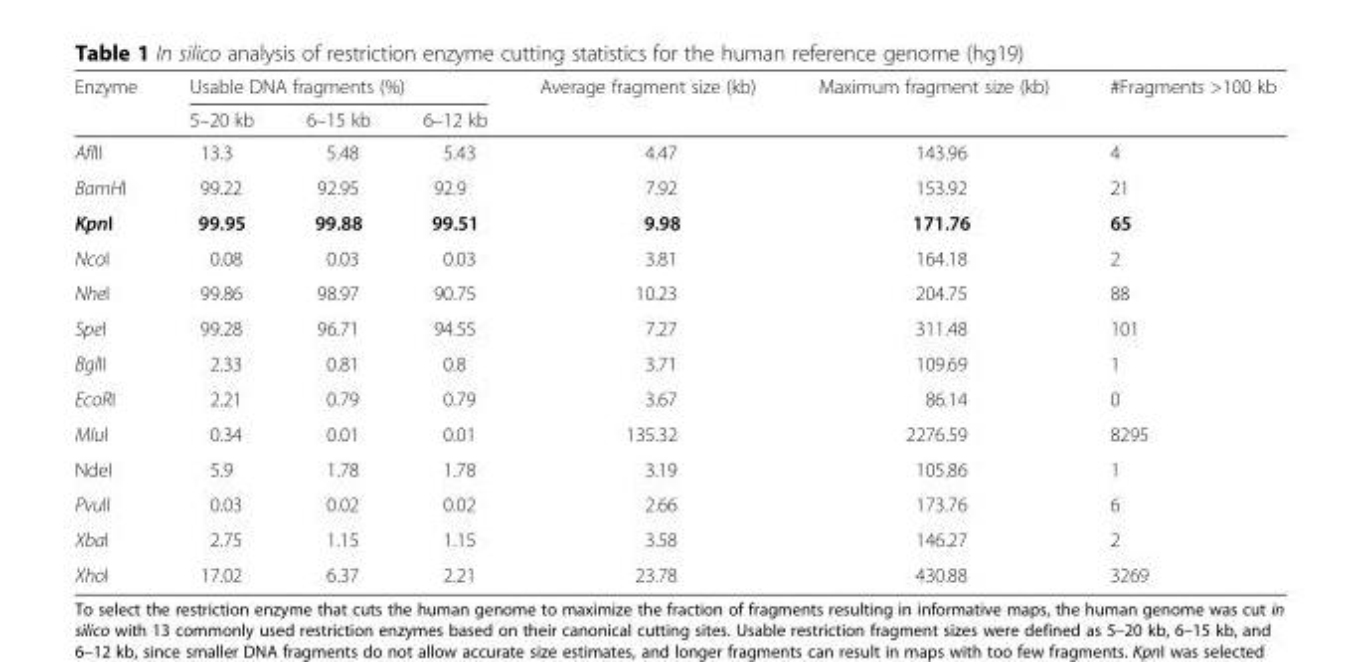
<table><thead><tr><td rowspan="2">Enzyme</td><td colspan="3">Usable DNA fragments (%)</td><td rowspan="2">Average fragment size (kb)</td><td rowspan="2">Maximum fragment size (kb)</td><td rowspan="2">#Fragments &gt;100 kb</td></tr><tr><td>5–20 kb</td><td>6–15 kb</td><td>6–12 kb</td></tr></thead><tbody><tr><td>AflII</td><td>13.3</td><td>5.48</td><td>5.43</td><td>4.47</td><td>143.96</td><td>4</td></tr><tr><td>BamHI</td><td>99.22</td><td>92.95</td><td>92.9</td><td>7.92</td><td>153.92</td><td>21</td></tr><tr><td>KpnI</td><td>99.95</td><td>99.88</td><td>99.51</td><td>9.98</td><td>171.76</td><td>65</td></tr><tr><td>NcoI</td><td>0.08</td><td>0.03</td><td>0.03</td><td>3.81</td><td>164.18</td><td>2</td></tr><tr><td>NheI</td><td>99.86</td><td>98.97</td><td>90.75</td><td>10.23</td><td>204.75</td><td>88</td></tr><tr><td>SpeI</td><td>99.28</td><td>96.71</td><td>94.55</td><td>7.27</td><td>311.48</td><td>101</td></tr><tr><td>BglII</td><td>2.33</td><td>0.81</td><td>0.8</td><td>3.71</td><td>109.69</td><td>1</td></tr><tr><td>EcoRI</td><td>2.21</td><td>0.79</td><td>0.79</td><td>3.67</td><td>86.14</td><td>0</td></tr><tr><td>MluI</td><td>0.34</td><td>0.01</td><td>0.01</td><td>135.32</td><td>2276.59</td><td>8295</td></tr><tr><td>NdeI</td><td>5.9</td><td>1.78</td><td>1.78</td><td>3.19</td><td>105.86</td><td>1</td></tr><tr><td>PvuII</td><td>0.03</td><td>0.02</td><td>0.02</td><td>2.66</td><td>173.76</td><td>6</td></tr><tr><td>XbaI</td><td>2.75</td><td>1.15</td><td>1.15</td><td>3.58</td><td>146.27</td><td>2</td></tr><tr><td>XhoI</td><td>17.02</td><td>6.37</td><td>2.21</td><td>23.78</td><td>430.88</td><td>3269</td></tr></tbody></table>